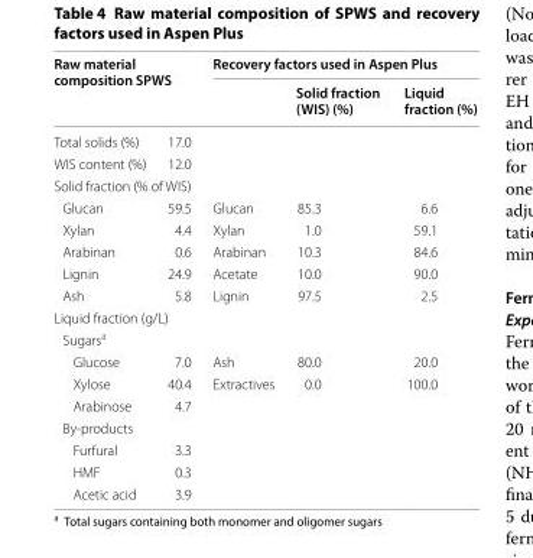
<table><thead><tr><td rowspan="2" colspan="2">Raw material composition SPWS</td><td colspan="3">Recovery factors used in Aspen Plus</td></tr><tr><td rowspan="2"></td><td rowspan="2">Solid fraction (WIS) (%)</td><td rowspan="2">Liquid fraction (%)</td></tr><tr><td>Total solids (%)</td><td>17.0</td></tr></thead><tbody><tr><td>WIS content (%)</td><td>12.0</td><td></td><td></td><td></td></tr><tr><td colspan="5">Solid fraction (% of WIS)</td></tr><tr><td>Glucan</td><td>59.5</td><td>Glucan</td><td>85.3</td><td>6.6</td></tr><tr><td>Xylan</td><td>4.4</td><td>Xylan</td><td>1.0</td><td>59.1</td></tr><tr><td>Arabinan</td><td>0.6</td><td>Arabinan</td><td>10.3</td><td>84.6</td></tr><tr><td>Lignin</td><td>24.9</td><td>Acetate</td><td>10.0</td><td>90.0</td></tr><tr><td>Ash</td><td>5.8</td><td>Lignin</td><td>97.5</td><td>2.5</td></tr><tr><td colspan="5">Liquid fraction (g/L)</td></tr><tr><td colspan="5">Sugars<sup>a</sup></td></tr><tr><td>Glucose</td><td>7.0</td><td>Ash</td><td>80.0</td><td>20.0</td></tr><tr><td>Xylose</td><td>40.4</td><td>Extractives</td><td>0.0</td><td>100.0</td></tr><tr><td>Arabinose</td><td>4.7</td><td></td><td></td><td></td></tr><tr><td colspan="5">By-products</td></tr><tr><td>Furfural</td><td>3.3</td><td></td><td></td><td></td></tr><tr><td>HMF</td><td>0.3</td><td></td><td></td><td></td></tr><tr><td>Acetic acid</td><td>3.9</td><td></td><td></td><td></td></tr></tbody></table>